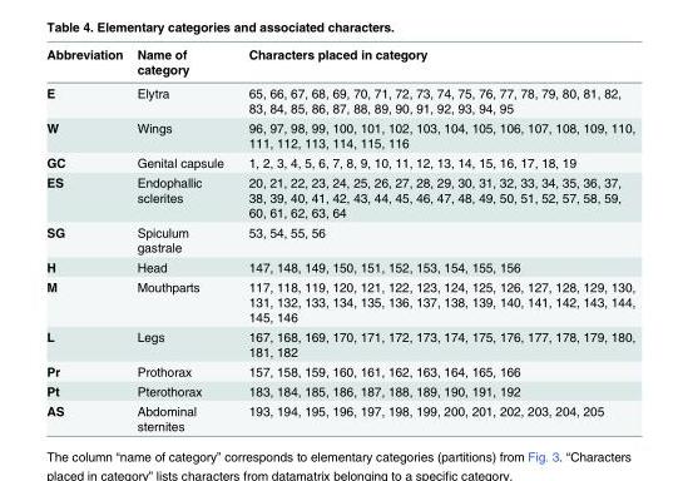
<table><thead><tr><td>Abbreviation</td><td>Name of category</td><td>Characters placed in category</td></tr></thead><tbody><tr><td>E</td><td>Elytra</td><td>65, 66, 67, 68, 69, 70, 71, 72, 73, 74, 75, 76, 77, 78, 79, 80, 81, 82, 83, 84, 85, 86, 87, 88, 89, 90, 91, 92, 93, 94, 95</td></tr><tr><td>W</td><td>Wings</td><td>96, 97, 98, 99, 100, 101, 102, 103, 104, 105, 106, 107, 108, 109, 110, 111, 112, 113, 114, 115, 116</td></tr><tr><td>GC</td><td>Genital capsule</td><td>1, 2, 3, 4, 5, 6, 7, 8, 9, 10, 11, 12, 13, 14, 15, 16, 17, 18, 19</td></tr><tr><td>ES</td><td>Endophallic sclerites</td><td>20, 21, 22, 23, 24, 25, 26, 27, 28, 29, 30, 31, 32, 33, 34, 35, 36, 37, 38, 39, 40, 41, 42, 43, 44, 45, 46, 47, 48, 49, 50, 51, 52, 57, 58, 59, 60, 61, 62, 63, 64</td></tr><tr><td>SG</td><td>Spiculum gastrale</td><td>53, 54, 55, 56</td></tr><tr><td>H</td><td>Head</td><td>147, 148, 149, 150, 151, 152, 153, 154, 155, 156</td></tr><tr><td>M</td><td>Mouthparts</td><td>117, 118, 119, 120, 121, 122, 123, 124, 125, 126, 127, 128, 129, 130, 131, 132, 133, 134, 135, 136, 137, 138, 139, 140, 141, 142, 143, 144, 145, 146</td></tr><tr><td>L</td><td>Legs</td><td>167, 168, 169, 170, 171, 172, 173, 174, 175, 176, 177, 178, 179, 180, 181, 182</td></tr><tr><td>Pr</td><td>Prothorax</td><td>157, 158, 159, 160, 161, 162, 163, 164, 165, 166</td></tr><tr><td>Pt</td><td>Pterothorax</td><td>183, 184, 185, 186, 187, 188, 189, 190, 191, 192</td></tr><tr><td>AS</td><td>Abdominal sternites</td><td>193, 194, 195, 196, 197, 198, 199, 200, 201, 202, 203, 204, 205</td></tr></tbody></table>